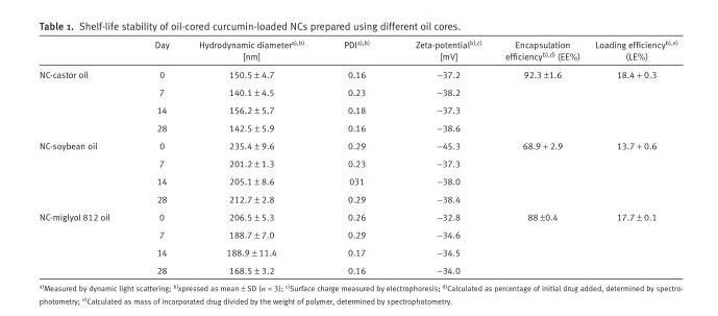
<table><thead><tr><td></td><td>Day</td><td>Hydrodynamic diameter a),b) [nm]</td><td>PDI a),b)</td><td>Zeta-potential b),c) [mV]</td><td>Encapsulation effi ciency b),d) (EE%)</td><td>Loading effi ciency b),e) (LE%)</td></tr></thead><tbody><tr><td rowspan="4">NC-castor oil</td><td>0</td><td>150.5 ± 4.7</td><td>0.16</td><td>−37.2</td><td>92.3 ±1.6</td><td>18.4 + 0.3</td></tr><tr><td>7</td><td>140.1 ± 4.5</td><td>0.23</td><td>−38.2</td><td></td><td></td></tr><tr><td>14</td><td>156.2 ± 5.7</td><td>0.18</td><td>−37.3</td><td></td><td></td></tr><tr><td>28</td><td>142.5 ± 5.9</td><td>0.16</td><td>−38.6</td><td></td><td></td></tr><tr><td rowspan="4">NC-soybean oil</td><td>0</td><td>235.4 ± 9.6</td><td>0.29</td><td>−45.3</td><td>68.9 + 2.9</td><td>13.7 + 0.6</td></tr><tr><td>7</td><td>201.2 ± 1.3</td><td>0.23</td><td>−37.3</td><td></td><td></td></tr><tr><td>14</td><td>205.1 ± 8.6</td><td>031</td><td>−38.0</td><td></td><td></td></tr><tr><td>28</td><td>212.7 ± 2.8</td><td>0.29</td><td>−38.4</td><td></td><td></td></tr><tr><td rowspan="4">NC-miglyol 812 oil</td><td>0</td><td>206.5 ± 5.3</td><td>0.26</td><td>−32.8</td><td>88 ±0.4</td><td>17.7 ± 0.1</td></tr><tr><td>7</td><td>188.7 ± 7.0</td><td>0.29</td><td>−34.6</td><td></td><td></td></tr><tr><td>14</td><td>188.9 ± 11.4</td><td>0.17</td><td>−34.5</td><td></td><td></td></tr><tr><td>28</td><td>168.5 ± 3.2</td><td>0.16</td><td>−34.0</td><td></td><td></td></tr></tbody></table>